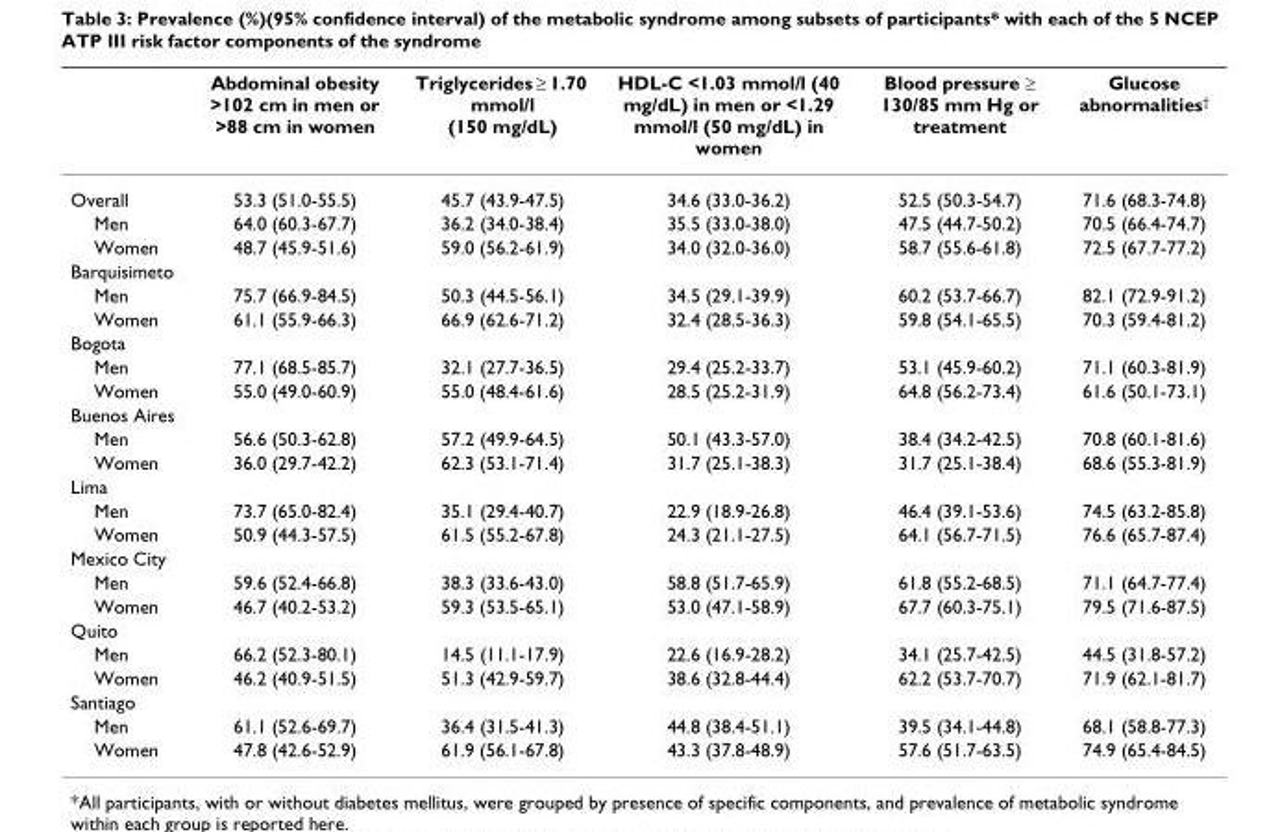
<table><thead><tr><td></td><td>Abdominal obesity &gt;102 cm in men or &gt;88 cm in women</td><td>Triglycerides ≥ 1.70 mmol/l (150 mg/dL)</td><td>HDL-C &lt;1.03 mmol/l (40 mg/dL) in men or &lt;1.29 mmol/l (50 mg/dL) in women</td><td>Blood pressure ≥ 130/85 mm Hg or treatment</td><td>Glucose abnormalities<sup>†</sup></td></tr></thead><tbody><tr><td>Overall</td><td>53.3 (51.0-55.5)</td><td>45.7 (43.9-47.5)</td><td>34.6 (33.0-36.2)</td><td>52.5 (50.3-54.7)</td><td>71.6 (68.3-74.8)</td></tr><tr><td>Men</td><td>64.0 (60.3-67.7)</td><td>36.2 (34.0-38.4)</td><td>35.5 (33.0-38.0)</td><td>47.5 (44.7-50.2)</td><td>70.5 (66.4-74.7)</td></tr><tr><td>Women</td><td>48.7 (45.9-51.6)</td><td>59.0 (56.2-61.9)</td><td>34.0 (32.0-36.0)</td><td>58.7 (55.6-61.8)</td><td>72.5 (67.7-77.2)</td></tr><tr><td colspan="6">Barquisimeto</td></tr><tr><td>Men</td><td>75.7 (66.9-84.5)</td><td>50.3 (44.5-56.1)</td><td>34.5 (29.1-39.9)</td><td>60.2 (53.7-66.7)</td><td>82.1 (72.9-91.2)</td></tr><tr><td>Women</td><td>61.1 (55.9-66.3)</td><td>66.9 (62.6-71.2)</td><td>32.4 (28.5-36.3)</td><td>59.8 (54.1-65.5)</td><td>70.3 (59.4-81.2)</td></tr><tr><td colspan="6">Bogota</td></tr><tr><td>Men</td><td>77.1 (68.5-85.7)</td><td>32.1 (27.7-36.5)</td><td>29.4 (25.2-33.7)</td><td>53.1 (45.9-60.2)</td><td>71.1 (60.3-81.9)</td></tr><tr><td>Women</td><td>55.0 (49.0-60.9)</td><td>55.0 (48.4-61.6)</td><td>28.5 (25.2-31.9)</td><td>64.8 (56.2-73.4)</td><td>61.6 (50.1-73.1)</td></tr><tr><td colspan="6">Buenos Aires</td></tr><tr><td>Men</td><td>56.6 (50.3-62.8)</td><td>57.2 (49.9-64.5)</td><td>50.1 (43.3-57.0)</td><td>38.4 (34.2-42.5)</td><td>70.8 (60.1-81.6)</td></tr><tr><td>Women</td><td>36.0 (29.7-42.2)</td><td>62.3 (53.1-71.4)</td><td>31.7 (25.1-38.3)</td><td>31.7 (25.1-38.4)</td><td>68.6 (55.3-81.9)</td></tr><tr><td colspan="6">Lima</td></tr><tr><td>Men</td><td>73.7 (65.0-82.4)</td><td>35.1 (29.4-40.7)</td><td>22.9 (18.9-26.8)</td><td>46.4 (39.1-53.6)</td><td>74.5 (63.2-85.8)</td></tr><tr><td>Women</td><td>50.9 (44.3-57.5)</td><td>61.5 (55.2-67.8)</td><td>24.3 (21.1-27.5)</td><td>64.1 (56.7-71.5)</td><td>76.6 (65.7-87.4)</td></tr><tr><td colspan="6">Mexico City</td></tr><tr><td>Men</td><td>59.6 (52.4-66.8)</td><td>38.3 (33.6-43.0)</td><td>58.8 (51.7-65.9)</td><td>61.8 (55.2-68.5)</td><td>71.1 (64.7-77.4)</td></tr><tr><td>Women</td><td>46.7 (40.2-53.2)</td><td>59.3 (53.5-65.1)</td><td>53.0 (47.1-58.9)</td><td>67.7 (60.3-75.1)</td><td>79.5 (71.6-87.5)</td></tr><tr><td colspan="6">Quito</td></tr><tr><td>Men</td><td>66.2 (52.3-80.1)</td><td>14.5 (11.1-17.9)</td><td>22.6 (16.9-28.2)</td><td>34.1 (25.7-42.5)</td><td>44.5 (31.8-57.2)</td></tr><tr><td>Women</td><td>46.2 (40.9-51.5)</td><td>51.3 (42.9-59.7)</td><td>38.6 (32.8-44.4)</td><td>62.2 (53.7-70.7)</td><td>71.9 (62.1-81.7)</td></tr><tr><td colspan="6">Santiago</td></tr><tr><td>Men</td><td>61.1 (52.6-69.7)</td><td>36.4 (31.5-41.3)</td><td>44.8 (38.4-51.1)</td><td>39.5 (34.1-44.8)</td><td>68.1 (58.8-77.3)</td></tr><tr><td>Women</td><td>47.8 (42.6-52.9)</td><td>61.9 (56.1-67.8)</td><td>43.3 (37.8-48.9)</td><td>57.6 (51.7-63.5)</td><td>74.9 (65.4-84.5)</td></tr></tbody></table>